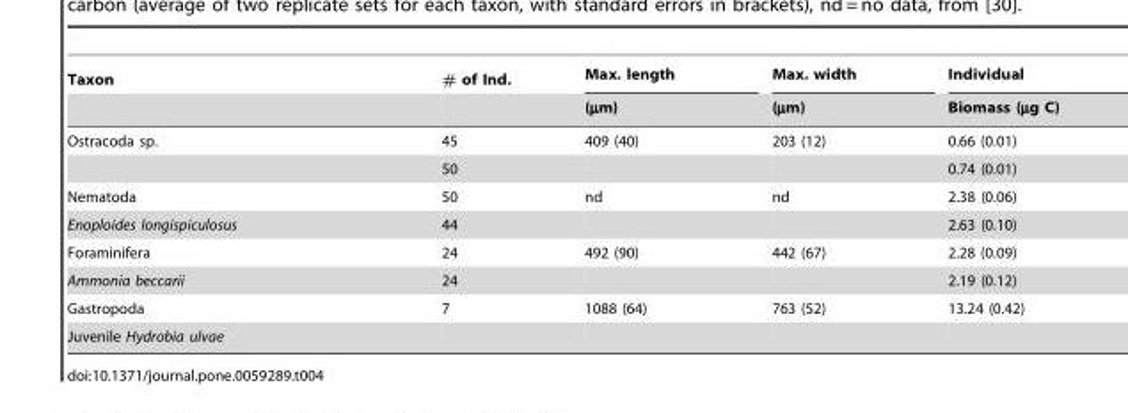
<table><thead><tr><td rowspan="2">Taxon</td><td rowspan="2"># of Ind.</td><td rowspan="2">Max. length (µm)</td><td rowspan="2">Max. width (µm)</td><td rowspan="2">Individual Biomass (µg C)</td></tr><tr></tr></thead><tbody><tr><td rowspan="2">Ostracoda sp.</td><td>45</td><td>409 (40)</td><td>203 (12)</td><td>0.66 (0.01)</td></tr><tr><td>50</td><td></td><td></td><td>0.74 (0.01)</td></tr><tr><td>Nematoda</td><td>50</td><td>nd</td><td>nd</td><td>2.38 (0.06)</td></tr><tr><td>Enoploides longispiculosus</td><td>44</td><td></td><td></td><td>2.63 (0.10)</td></tr><tr><td>Foraminifera</td><td>24</td><td>492 (90)</td><td>442 (67)</td><td>2.28 (0.09)</td></tr><tr><td>Ammonia beccarii</td><td>24</td><td></td><td></td><td>2.19 (0.12)</td></tr><tr><td>Gastropoda</td><td>7</td><td>1088 (64)</td><td>763 (52)</td><td>13.24 (0.42)</td></tr><tr><td>Juvenile Hydrobia ulvae</td><td></td><td></td><td></td><td></td></tr></tbody></table>